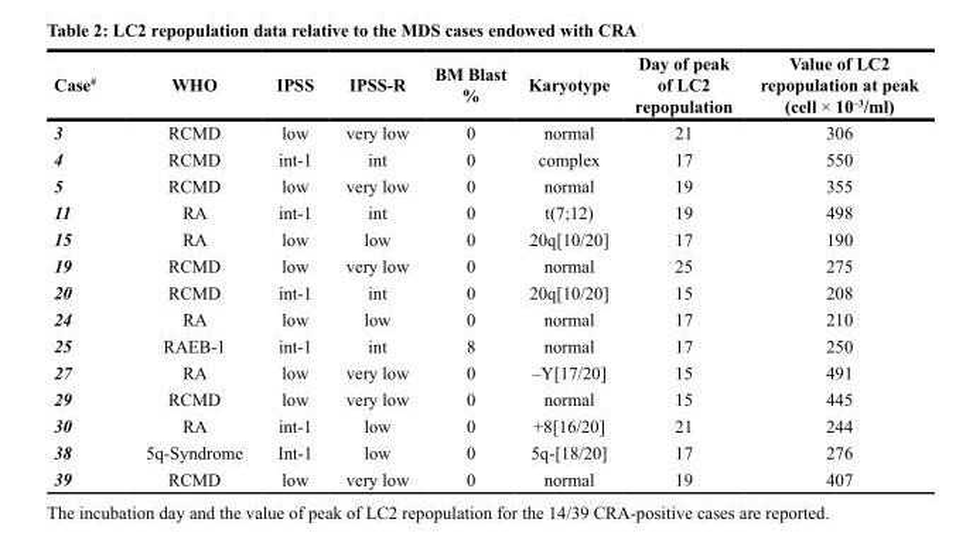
<table><thead><tr><td>Case<sup>#</sup></td><td>WHO</td><td>IPSS</td><td>IPSS-R</td><td>BM Blast %</td><td>Karyotype</td><td>Day of peak of LC2 repopulation</td><td>Value of LC2 repopulation at peak (cell × 10<sup>–3</sup>/ml)</td></tr></thead><tbody><tr><td>3</td><td>RCMD</td><td>low</td><td>very low</td><td>0</td><td>normal</td><td>21</td><td>306</td></tr><tr><td>4</td><td>RCMD</td><td>int-1</td><td>int</td><td>0</td><td>complex</td><td>17</td><td>550</td></tr><tr><td>5</td><td>RCMD</td><td>low</td><td>very low</td><td>0</td><td>normal</td><td>19</td><td>355</td></tr><tr><td>11</td><td>RA</td><td>int-1</td><td>int</td><td>0</td><td>t(7;12)</td><td>19</td><td>498</td></tr><tr><td>15</td><td>RA</td><td>low</td><td>low</td><td>0</td><td>20q[10/20]</td><td>17</td><td>190</td></tr><tr><td>19</td><td>RCMD</td><td>low</td><td>very low</td><td>0</td><td>normal</td><td>25</td><td>275</td></tr><tr><td>20</td><td>RCMD</td><td>int-1</td><td>int</td><td>0</td><td>20q[10/20]</td><td>15</td><td>208</td></tr><tr><td>24</td><td>RA</td><td>low</td><td>low</td><td>0</td><td>normal</td><td>17</td><td>210</td></tr><tr><td>25</td><td>RAEB-1</td><td>int-1</td><td>int</td><td>8</td><td>normal</td><td>17</td><td>250</td></tr><tr><td>27</td><td>RA</td><td>low</td><td>very low</td><td>0</td><td>–Y[17/20]</td><td>15</td><td>491</td></tr><tr><td>29</td><td>RCMD</td><td>low</td><td>very low</td><td>0</td><td>normal</td><td>15</td><td>445</td></tr><tr><td>30</td><td>RA</td><td>int-1</td><td>low</td><td>0</td><td>+8[16/20]</td><td>21</td><td>244</td></tr><tr><td>38</td><td>5q-Syndrome</td><td>Int-1</td><td>low</td><td>0</td><td>5q-[18/20]</td><td>17</td><td>276</td></tr><tr><td>39</td><td>RCMD</td><td>low</td><td>very low</td><td>0</td><td>normal</td><td>19</td><td>407</td></tr></tbody></table>